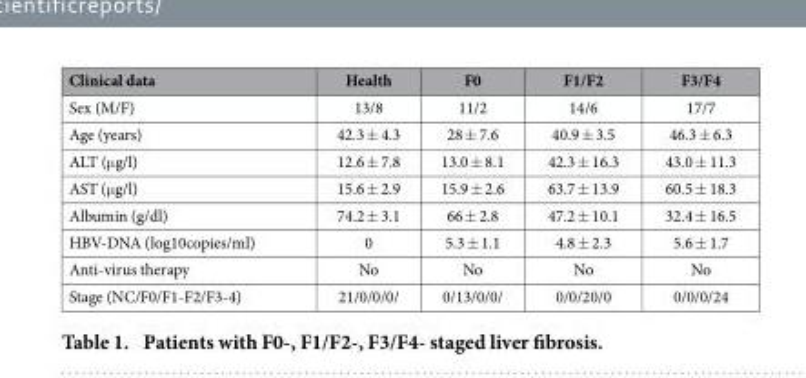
<table><thead><tr><td>Clinical data</td><td>Health</td><td>F0</td><td>F1/F2</td><td>F3/F4</td></tr></thead><tbody><tr><td>Sex (M/F)</td><td>13/8</td><td>11/2</td><td>14/6</td><td>17/7</td></tr><tr><td>Age (years)</td><td>42.3 ± 4.3</td><td>28 ± 7.6</td><td>40.9 ± 3.5</td><td>46.3 ± 6.3</td></tr><tr><td>ALT (μ g/l)</td><td>12.6 ± 7.8</td><td>13.0 ± 8.1</td><td>42.3 ± 16.3</td><td>43.0 ± 11.3</td></tr><tr><td>AST (μ g/l)</td><td>15.6 ± 2.9</td><td>15.9 ± 2.6</td><td>63.7 ± 13.9</td><td>60.5 ± 18.3</td></tr><tr><td>Albumin (g/dl)</td><td>74.2 ± 3.1</td><td>66 ± 2.8</td><td>47.2 ± 10.1</td><td>32.4 ± 16.5</td></tr><tr><td>HBV-DNA (log10copies/ml)</td><td>0</td><td>5.3 ± 1.1</td><td>4.8 ± 2.3</td><td>5.6 ± 1.7</td></tr><tr><td>Anti-virus therapy</td><td>No</td><td>No</td><td>No</td><td>No</td></tr><tr><td>Stage (NC/F0/F1-F2/F3-4)</td><td>21/0/0/0/</td><td>0/13/0/0/</td><td>0/0/20/0</td><td>0/0/0/24</td></tr></tbody></table>